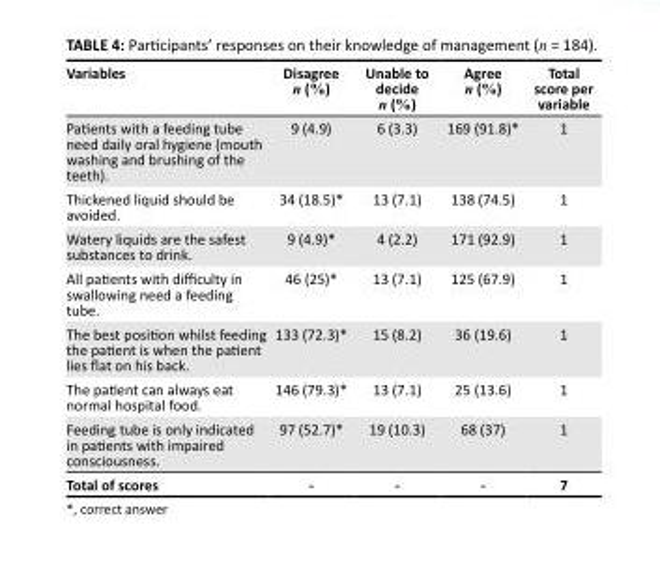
<table><thead><tr><td>Variables</td><td>Disagree n (%)</td><td>Unable to decide n (%)</td><td>Agree n (%)</td><td>Total score per variable</td></tr></thead><tbody><tr><td>Patients with a feeding tube need daily oral hygiene (mouth washing and brushing of the teeth).</td><td>9 (4.9)</td><td>6 (3.3)</td><td>169 (91.8)*</td><td>1</td></tr><tr><td>Thickened liquid should be avoided.</td><td>34 (18.5)*</td><td>13 (7.1)</td><td>138 (74.5)</td><td>1</td></tr><tr><td>Watery liquids are the safest substances to drink.</td><td>9 (4.9)*</td><td>4 (2.2)</td><td>171 (92.9)</td><td>1</td></tr><tr><td>All patients with difficulty in swallowing need a feeding tube.</td><td>46 (25)*</td><td>13 (7.1)</td><td>125 (67.9)</td><td>1</td></tr><tr><td>The best position whilst feeding the patient is when the patient lies flat on his back.</td><td>133 (72.3)*</td><td>15 (8.2)</td><td>36 (19.6)</td><td>1</td></tr><tr><td>The patient can always eat normal hospital food.</td><td>146 (79.3)*</td><td>13 (7.1)</td><td>25 (13.6)</td><td>1</td></tr><tr><td>Feeding tube is only indicated in patients with impaired consciousness.</td><td>97 (52.7)*</td><td>19 (10.3)</td><td>68 (37)</td><td>1</td></tr><tr><td>Total of scores</td><td>-</td><td>-</td><td>-</td><td>7</td></tr></tbody></table>